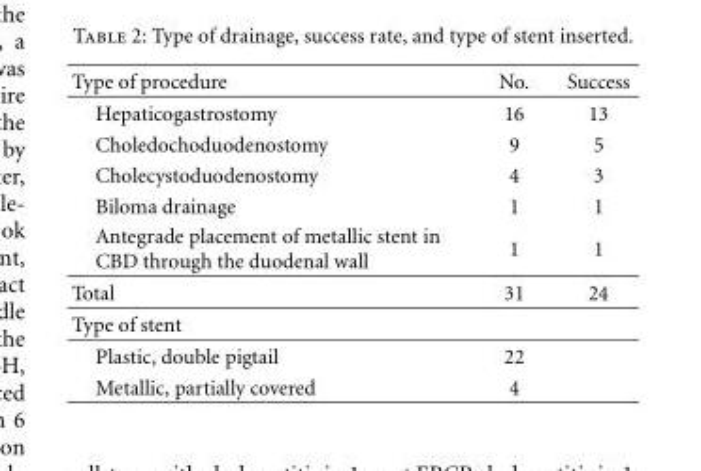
<table><thead><tr><td>Type of procedure</td><td>No.</td><td>Success</td></tr></thead><tbody><tr><td>Hepaticogastrostomy</td><td>16</td><td>13</td></tr><tr><td>Choledochoduodenostomy</td><td>9</td><td>5</td></tr><tr><td>Cholecystoduodenostomy</td><td>4</td><td>3</td></tr><tr><td>Biloma drainage</td><td>1</td><td>1</td></tr><tr><td>Antegrade placement of metallic stent in CBD through the duodenal wall</td><td>1</td><td>1</td></tr><tr><td>Total</td><td>31</td><td>24</td></tr><tr><td colspan="3">Type of stent</td></tr><tr><td>Plastic, double pigtail</td><td>22</td><td></td></tr><tr><td>Metallic, partially covered</td><td>4</td><td></td></tr></tbody></table>